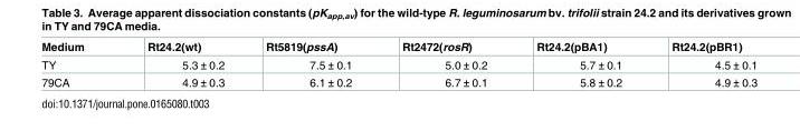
<table><thead><tr><td>Medium</td><td>Rt24.2(wt)</td><td>Rt5819(pssA)</td><td>Rt2472(rosR)</td><td>Rt24.2(pBA1)</td><td>Rt24.2(pBR1)</td></tr></thead><tbody><tr><td>TY</td><td>5.3 ± 0.2</td><td>7.5 ± 0.1</td><td>5.0 ± 0.2</td><td>5.7 ± 0.1</td><td>4.5 ± 0.1</td></tr><tr><td>79CA</td><td>4.9 ± 0.3</td><td>6.1 ± 0.2</td><td>6.7 ± 0.1</td><td>5.8 ± 0.2</td><td>4.9 ± 0.3</td></tr></tbody></table>